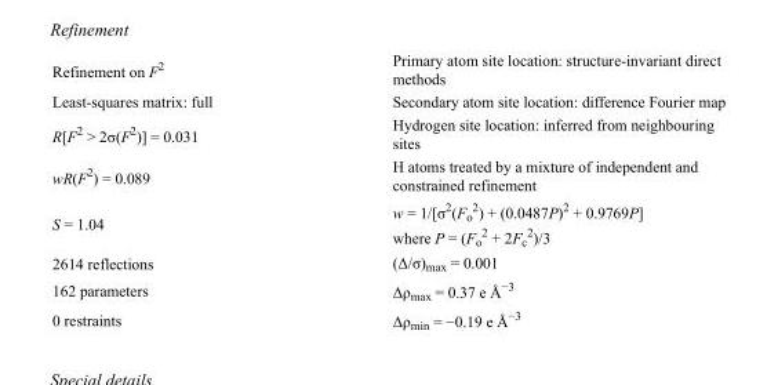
<table><tbody><tr><td>Refinement on F<sup>2</sup></td><td>Primary atom site location: structure-invariant direct methods</td></tr><tr><td>Least-squares matrix: full</td><td>Secondary atom site location: difference Fourier map</td></tr><tr><td>R[F<sup>2</sup> &gt; 2σ(F<sup>2</sup>)] = 0.031</td><td>Hydrogen site location: inferred from neighbouring sites</td></tr><tr><td>wR(F<sup>2</sup>) = 0.089</td><td>H atoms treated by a mixture of independent and constrained refinement</td></tr><tr><td>S = 1.04</td><td>w = 1/[σ<sup>2</sup>(F<sub>o</sub> <sup>2</sup>) + (0.0487P)<sup>2</sup> + 0.9769P] where P = (F<sub>o</sub> <sup>2</sup> + 2F<sub>c</sub> <sup>2</sup>)/3</td></tr><tr><td>2614 reflections</td><td>(Δ/σ)<sub>max</sub> = 0.001</td></tr><tr><td>162 parameters</td><td>Δρ<sub>max</sub> = 0.37 e Å<sup>−3</sup></td></tr><tr><td>0 restraints</td><td>Δρ<sub>min</sub> = −0.19 e Å<sup>−3</sup></td></tr></tbody></table>